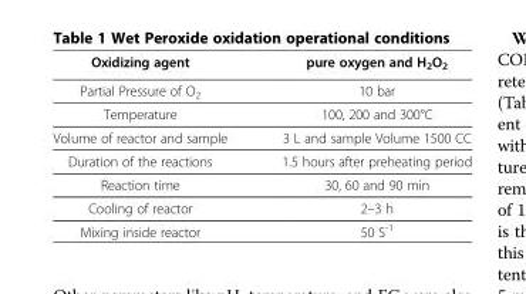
<table><thead><tr><td>Oxidizing agent</td><td>pure oxygen and H<sub>2</sub>O<sub>2</sub></td></tr></thead><tbody><tr><td>Partial Pressure of O<sub>2</sub></td><td>10 bar</td></tr><tr><td>Temperature</td><td>100, 200 and 300°C</td></tr><tr><td>Volume of reactor and sample</td><td>3 L and sample Volume 1500 CC</td></tr><tr><td>Duration of the reactions</td><td>1.5 hours after preheating period</td></tr><tr><td>Reaction time</td><td>30, 60 and 90 min</td></tr><tr><td>Cooling of reactor</td><td>2–3 h</td></tr><tr><td>Mixing inside reactor</td><td>50 S<sup>-1</sup></td></tr></tbody></table>